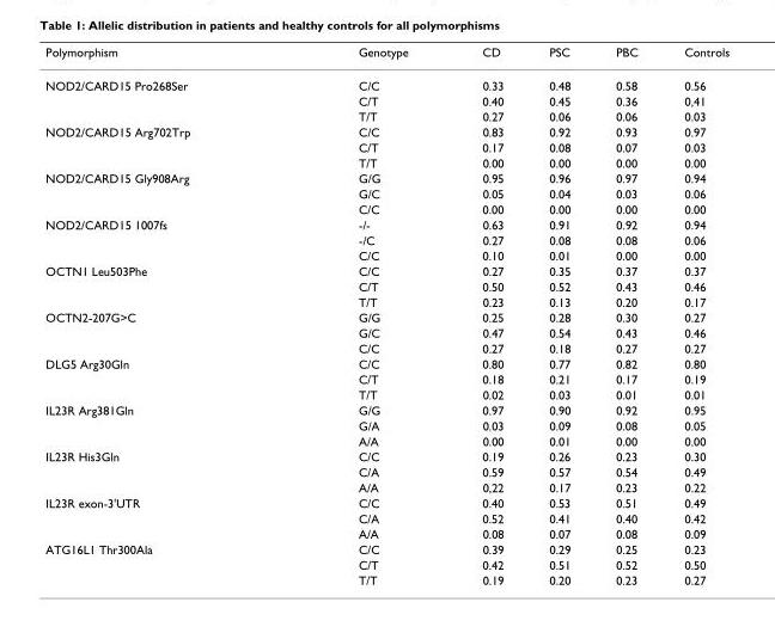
<table><thead><tr><td>Polymorphism</td><td>Genotype</td><td>CD</td><td>PSC</td><td>PBC</td><td>Controls</td></tr></thead><tbody><tr><td rowspan="3">NOD2/CARD15 Pro268Ser</td><td>C/C</td><td>0.33</td><td>0.48</td><td>0.58</td><td>0.56</td></tr><tr><td>C/T</td><td>0.40</td><td>0.45</td><td>0.36</td><td>0,41</td></tr><tr><td>T/T</td><td>0.27</td><td>0.06</td><td>0.06</td><td>0.03</td></tr><tr><td rowspan="3">NOD2/CARD15 Arg702Trp</td><td>C/C</td><td>0.83</td><td>0.92</td><td>0.93</td><td>0.97</td></tr><tr><td>C/T</td><td>0.17</td><td>0.08</td><td>0.07</td><td>0.03</td></tr><tr><td>T/T</td><td>0.00</td><td>0.00</td><td>0.00</td><td>0.00</td></tr><tr><td rowspan="3">NOD2/CARD15 Gly908Arg</td><td>G/G</td><td>0.95</td><td>0.96</td><td>0.97</td><td>0.94</td></tr><tr><td>G/C</td><td>0.05</td><td>0.04</td><td>0.03</td><td>0.06</td></tr><tr><td>C/C</td><td>0.00</td><td>0.00</td><td>0.00</td><td>0.00</td></tr><tr><td rowspan="3">NOD2/CARD15 1007fs</td><td>-/-</td><td>0.63</td><td>0.91</td><td>0.92</td><td>0.94</td></tr><tr><td>-/C</td><td>0.27</td><td>0.08</td><td>0.08</td><td>0.06</td></tr><tr><td>C/C</td><td>0.10</td><td>0.01</td><td>0.00</td><td>0.00</td></tr><tr><td rowspan="3">OCTN1 Leu503Phe</td><td>C/C</td><td>0.27</td><td>0.35</td><td>0.37</td><td>0.37</td></tr><tr><td>C/T</td><td>0.50</td><td>0.52</td><td>0.43</td><td>0.46</td></tr><tr><td>T/T</td><td>0.23</td><td>0.13</td><td>0.20</td><td>0.17</td></tr><tr><td rowspan="3">OCTN2-207G&gt;C</td><td>G/G</td><td>0.25</td><td>0.28</td><td>0.30</td><td>0.27</td></tr><tr><td>G/C</td><td>0.47</td><td>0.54</td><td>0.43</td><td>0.46</td></tr><tr><td>C/C</td><td>0.27</td><td>0.18</td><td>0.27</td><td>0.27</td></tr><tr><td rowspan="3">DLG5 Arg30Gln</td><td>C/C</td><td>0.80</td><td>0.77</td><td>0.82</td><td>0.80</td></tr><tr><td>C/T</td><td>0.18</td><td>0.21</td><td>0.17</td><td>0.19</td></tr><tr><td>T/T</td><td>0.02</td><td>0.03</td><td>0.01</td><td>0.01</td></tr><tr><td rowspan="3">IL23R Arg381Gln</td><td>G/G</td><td>0.97</td><td>0.90</td><td>0.92</td><td>0.95</td></tr><tr><td>G/A</td><td>0.03</td><td>0.09</td><td>0.08</td><td>0.05</td></tr><tr><td>A/A</td><td>0.00</td><td>0.01</td><td>0.00</td><td>0.00</td></tr><tr><td rowspan="3">IL23R His3Gln</td><td>C/C</td><td>0.19</td><td>0.26</td><td>0.23</td><td>0.30</td></tr><tr><td>C/A</td><td>0.59</td><td>0.57</td><td>0.54</td><td>0.49</td></tr><tr><td>A/A</td><td>0,22</td><td>0.17</td><td>0.23</td><td>0.22</td></tr><tr><td rowspan="3">IL23R exon-3&#x27;UTR</td><td>C/C</td><td>0.40</td><td>0.53</td><td>0.51</td><td>0.49</td></tr><tr><td>C/A</td><td>0.52</td><td>0.41</td><td>0.40</td><td>0.42</td></tr><tr><td>A/A</td><td>0.08</td><td>0.07</td><td>0.08</td><td>0.09</td></tr><tr><td rowspan="3">ATG16L1 Thr300Ala</td><td>C/C</td><td>0.39</td><td>0.29</td><td>0.25</td><td>0.23</td></tr><tr><td>C/T</td><td>0.42</td><td>0.51</td><td>0.52</td><td>0.50</td></tr><tr><td>T/T</td><td>0.19</td><td>0.20</td><td>0.23</td><td>0.27</td></tr></tbody></table>